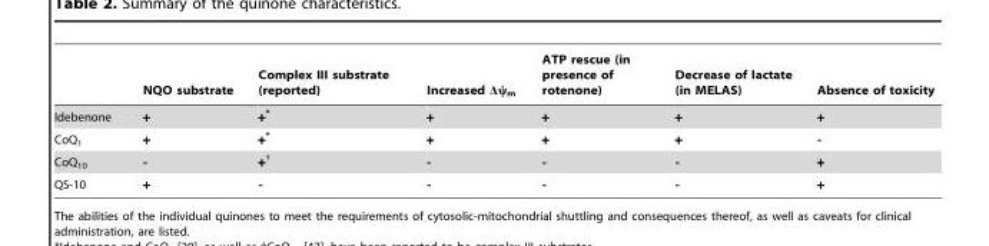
<table><thead><tr><td></td><td>NQO substrate</td><td>Complex III substrate (reported)</td><td>Increased Δψ<sub>m</sub></td><td>ATP rescue (in presence of rotenone)</td><td>Decrease of lactate (in MELAS)</td><td>Absence of toxicity</td></tr></thead><tbody><tr><td>Idebenone</td><td>+</td><td>+*</td><td>+</td><td>+</td><td>+</td><td>+</td></tr><tr><td>CoQ<sub>1</sub></td><td>+</td><td>+*</td><td>+</td><td>+</td><td>+</td><td>-</td></tr><tr><td>CoQ<sub>10</sub></td><td>-</td><td>+<sup>†</sup></td><td>-</td><td>-</td><td>-</td><td>+</td></tr><tr><td>QS-10</td><td>+</td><td>-</td><td>-</td><td>-</td><td>-</td><td>+</td></tr></tbody></table>